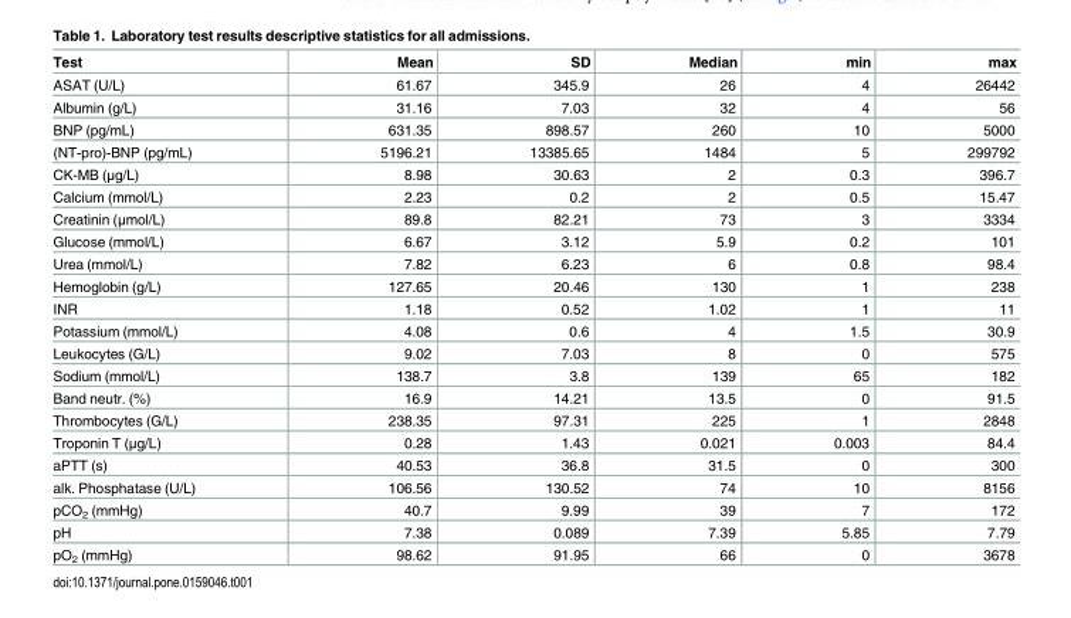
<table><thead><tr><td>Test</td><td>Mean</td><td>SD</td><td>Median</td><td>min</td><td>max</td></tr></thead><tbody><tr><td>ASAT (U/L)</td><td>61.67</td><td>345.9</td><td>26</td><td>4</td><td>26442</td></tr><tr><td>Albumin (g/L)</td><td>31.16</td><td>7.03</td><td>32</td><td>4</td><td>56</td></tr><tr><td>BNP (pg/mL)</td><td>631.35</td><td>898.57</td><td>260</td><td>10</td><td>5000</td></tr><tr><td>(NT-pro)-BNP (pg/mL)</td><td>5196.21</td><td>13385.65</td><td>1484</td><td>5</td><td>299792</td></tr><tr><td>CK-MB (μg/L)</td><td>8.98</td><td>30.63</td><td>2</td><td>0.3</td><td>396.7</td></tr><tr><td>Calcium (mmol/L)</td><td>2.23</td><td>0.2</td><td>2</td><td>0.5</td><td>15.47</td></tr><tr><td>Creatinin (μmol/L)</td><td>89.8</td><td>82.21</td><td>73</td><td>3</td><td>3334</td></tr><tr><td>Glucose (mmol/L)</td><td>6.67</td><td>3.12</td><td>5.9</td><td>0.2</td><td>101</td></tr><tr><td>Urea (mmol/L)</td><td>7.82</td><td>6.23</td><td>6</td><td>0.8</td><td>98.4</td></tr><tr><td>Hemoglobin (g/L)</td><td>127.65</td><td>20.46</td><td>130</td><td>1</td><td>238</td></tr><tr><td>INR</td><td>1.18</td><td>0.52</td><td>1.02</td><td>1</td><td>11</td></tr><tr><td>Potassium (mmol/L)</td><td>4.08</td><td>0.6</td><td>4</td><td>1.5</td><td>30.9</td></tr><tr><td>Leukocytes (G/L)</td><td>9.02</td><td>7.03</td><td>8</td><td>0</td><td>575</td></tr><tr><td>Sodium (mmol/L)</td><td>138.7</td><td>3.8</td><td>139</td><td>65</td><td>182</td></tr><tr><td>Band neutr. (%)</td><td>16.9</td><td>14.21</td><td>13.5</td><td>0</td><td>91.5</td></tr><tr><td>Thrombocytes (G/L)</td><td>238.35</td><td>97.31</td><td>225</td><td>1</td><td>2848</td></tr><tr><td>Troponin T (μg/L)</td><td>0.28</td><td>1.43</td><td>0.021</td><td>0.003</td><td>84.4</td></tr><tr><td>aPTT (s)</td><td>40.53</td><td>36.8</td><td>31.5</td><td>0</td><td>300</td></tr><tr><td>alk. Phosphatase (U/L)</td><td>106.56</td><td>130.52</td><td>74</td><td>10</td><td>8156</td></tr><tr><td>pCO<sub>2</sub> (mmHg)</td><td>40.7</td><td>9.99</td><td>39</td><td>7</td><td>172</td></tr><tr><td>pH</td><td>7.38</td><td>0.089</td><td>7.39</td><td>5.85</td><td>7.79</td></tr><tr><td>pO<sub>2</sub> (mmHg)</td><td>98.62</td><td>91.95</td><td>66</td><td>0</td><td>3678</td></tr></tbody></table>